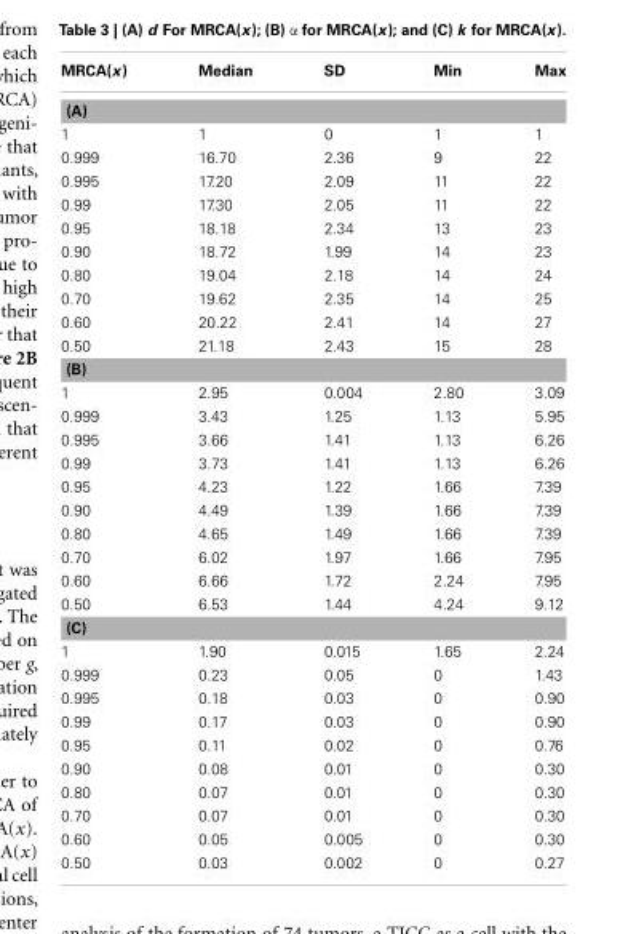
<table><thead><tr><td>MRCA(x)</td><td>Median</td><td>SD</td><td>Min</td><td>Max</td></tr></thead><tbody><tr><td colspan="5">(A)</td></tr><tr><td>1</td><td>1</td><td>0</td><td>1</td><td>1</td></tr><tr><td>0.999</td><td>16.70</td><td>2.36</td><td>9</td><td>22</td></tr><tr><td>0.995</td><td>17.20</td><td>2.09</td><td>11</td><td>22</td></tr><tr><td>0.99</td><td>17.30</td><td>2.05</td><td>11</td><td>22</td></tr><tr><td>0.95</td><td>18.18</td><td>2.34</td><td>13</td><td>23</td></tr><tr><td>0.90</td><td>18.72</td><td>1.99</td><td>14</td><td>23</td></tr><tr><td>0.80</td><td>19.04</td><td>2.18</td><td>14</td><td>24</td></tr><tr><td>0.70</td><td>19.62</td><td>2.35</td><td>14</td><td>25</td></tr><tr><td>0.60</td><td>20.22</td><td>2.41</td><td>14</td><td>27</td></tr><tr><td>0.50</td><td>21.18</td><td>2.43</td><td>15</td><td>28</td></tr><tr><td colspan="5">(B)</td></tr><tr><td>1</td><td>2.95</td><td>0.004</td><td>2.80</td><td>3.09</td></tr><tr><td>0.999</td><td>3.43</td><td>1.25</td><td>1.13</td><td>5.95</td></tr><tr><td>0.995</td><td>3.66</td><td>1.41</td><td>1.13</td><td>6.26</td></tr><tr><td>0.99</td><td>3.73</td><td>1.41</td><td>1.13</td><td>6.26</td></tr><tr><td>0.95</td><td>4.23</td><td>1.22</td><td>1.66</td><td>7.39</td></tr><tr><td>0.90</td><td>4.49</td><td>1.39</td><td>1.66</td><td>7.39</td></tr><tr><td>0.80</td><td>4.65</td><td>1.49</td><td>1.66</td><td>7.39</td></tr><tr><td>0.70</td><td>6.02</td><td>1.97</td><td>1.66</td><td>7.95</td></tr><tr><td>0.60</td><td>6.66</td><td>1.72</td><td>2.24</td><td>7.95</td></tr><tr><td>0.50</td><td>6.53</td><td>1.44</td><td>4.24</td><td>9.12</td></tr><tr><td colspan="5">(C)</td></tr><tr><td>1</td><td>1.90</td><td>0.015</td><td>1.65</td><td>2.24</td></tr><tr><td>0.999</td><td>0.23</td><td>0.05</td><td>0</td><td>1.43</td></tr><tr><td>0.995</td><td>0.18</td><td>0.03</td><td>0</td><td>0.90</td></tr><tr><td>0.99</td><td>0.17</td><td>0.03</td><td>0</td><td>0.90</td></tr><tr><td>0.95</td><td>0.11</td><td>0.02</td><td>0</td><td>0.76</td></tr><tr><td>0.90</td><td>0.08</td><td>0.01</td><td>0</td><td>0.30</td></tr><tr><td>0.80</td><td>0.07</td><td>0.01</td><td>0</td><td>0.30</td></tr><tr><td>0.70</td><td>0.07</td><td>0.01</td><td>0</td><td>0.30</td></tr><tr><td>0.60</td><td>0.05</td><td>0.005</td><td>0</td><td>0.30</td></tr><tr><td>0.50</td><td>0.03</td><td>0.002</td><td>0</td><td>0.27</td></tr></tbody></table>